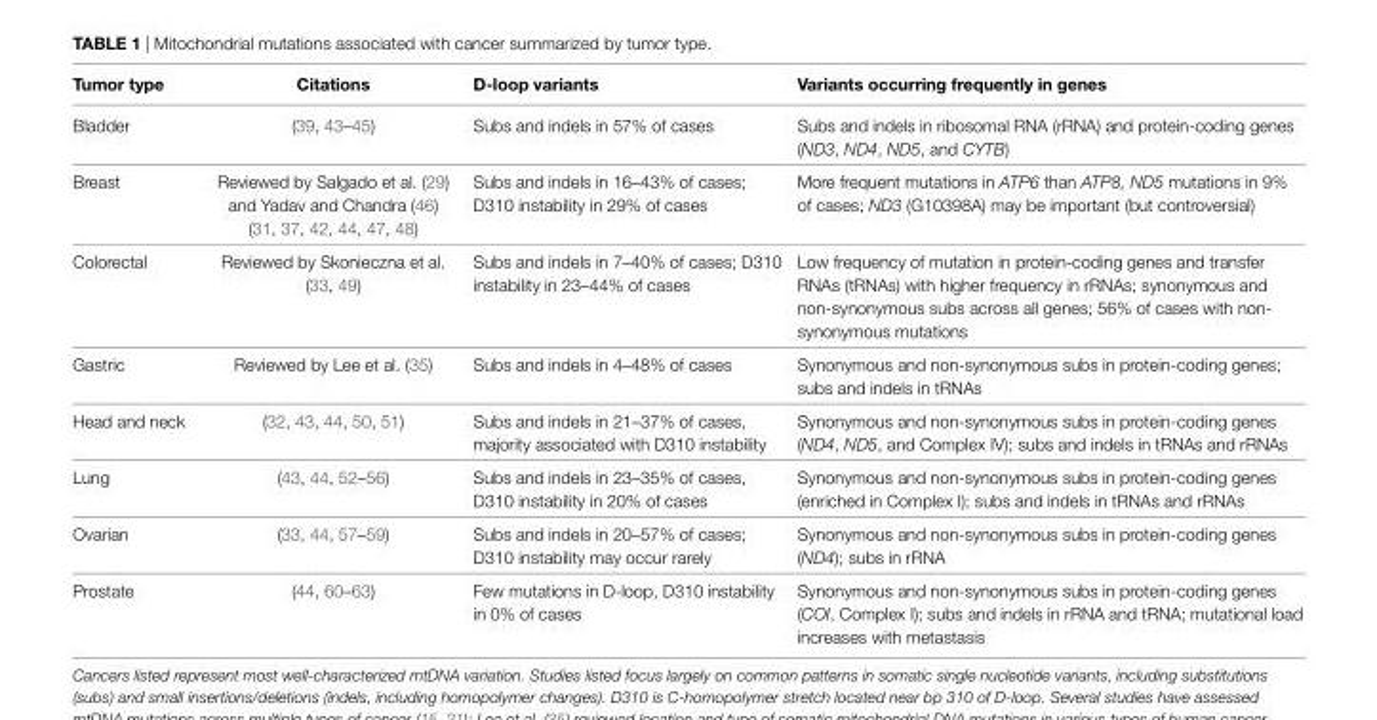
<table><thead><tr><td>Tumor type</td><td>Citations</td><td>D-loop variants</td><td>variants occurring frequently in genes</td></tr></thead><tbody><tr><td>Bladder</td><td>(39, 43–45)</td><td>Subs and indels in 57% of cases</td><td>Subs and indels in ribosomal RNA (rRNA) and protein-coding genes (ND3, ND4, ND5, and CYTB)</td></tr><tr><td>Breast</td><td>Reviewed by Salgado et al. (29) and Yadav and Chandra (46) (31, 37, 42, 44, 47, 48)</td><td>Subs and indels in 16–43% of cases; D310 instability in 29% of cases</td><td>More frequent mutations in ATP6 than ATP8, ND5 mutations in 9% of cases; ND3 (G10398A) may be important (but controversial)</td></tr><tr><td>Colorectal</td><td>Reviewed by Skonieczna et al. (33, 49)</td><td>Subs and indels in 7–40% of cases; D310 instability in 23–44% of cases</td><td>Low frequency of mutation in protein-coding genes and transfer RNAs (tRNAs) with higher frequency in rRNAs; synonymous and non-synonymous subs across all genes; 56% of cases with non- synonymous mutations</td></tr><tr><td>Gastric</td><td>Reviewed by Lee et al. (35)</td><td>Subs and indels in 4–48% of cases</td><td>Synonymous and non-synonymous subs in protein-coding genes; subs and indels in tRNAs</td></tr><tr><td>Head and neck</td><td>(32, 43, 44, 50, 51)</td><td>Subs and indels in 21–37% of cases, majority associated with D310 instability</td><td>Synonymous and non-synonymous subs in protein-coding genes (ND4, ND5, and Complex IV); subs and indels in tRNAs and rRNAs</td></tr><tr><td>Lung</td><td>(43, 44, 52–56)</td><td>Subs and indels in 23–35% of cases, D310 instability in 20% of cases</td><td>Synonymous and non-synonymous subs in protein-coding genes (enriched in Complex I); subs and indels in tRNAs and rRNAs</td></tr><tr><td>Ovarian</td><td>(33, 44, 57–59)</td><td>Subs and indels in 20–57% of cases; D310 instability may occur rarely</td><td>Synonymous and non-synonymous subs in protein-coding genes (ND4); subs in rRNA</td></tr><tr><td>Prostate</td><td>(44, 60–63)</td><td>Few mutations in D-loop, D310 instability in 0% of cases</td><td>Synonymous and non-synonymous subs in protein-coding genes (COI, Complex I); subs and indels in rRNA and tRNA; mutational load increases with metastasis</td></tr></tbody></table>